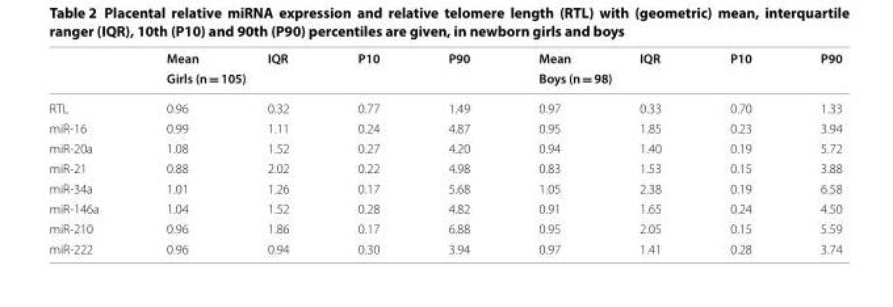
<table><thead><tr><td rowspan="2"></td><td>Mean</td><td>IQR</td><td>P10</td><td>P90</td><td>Mean</td><td>IQR</td><td>P10</td><td>P90</td></tr><tr><td colspan="4">Girls (n = 105)</td><td colspan="4">Boys (n = 98)</td></tr></thead><tbody><tr><td>RTL</td><td>0.96</td><td>0.32</td><td>0.77</td><td>1.49</td><td>0.97</td><td>0.33</td><td>0.70</td><td>1.33</td></tr><tr><td>miR-16</td><td>0.99</td><td>1.11</td><td>0.24</td><td>4.87</td><td>0.95</td><td>1.85</td><td>0.23</td><td>3.94</td></tr><tr><td>miR-20a</td><td>1.08</td><td>1.52</td><td>0.27</td><td>4.20</td><td>0.94</td><td>1.40</td><td>0.19</td><td>5.72</td></tr><tr><td>miR-21</td><td>0.88</td><td>2.02</td><td>0.22</td><td>4.98</td><td>0.83</td><td>1.53</td><td>0.15</td><td>3.88</td></tr><tr><td>miR-34a</td><td>1.01</td><td>1.26</td><td>0.17</td><td>5.68</td><td>1.05</td><td>2.38</td><td>0.19</td><td>6.58</td></tr><tr><td>miR-146a</td><td>1.04</td><td>1.52</td><td>0.28</td><td>4.82</td><td>0.91</td><td>1.65</td><td>0.24</td><td>4.50</td></tr><tr><td>miR-210</td><td>0.96</td><td>1.86</td><td>0.17</td><td>6.88</td><td>0.95</td><td>2.05</td><td>0.15</td><td>5.59</td></tr><tr><td>miR-222</td><td>0.96</td><td>0.94</td><td>0.30</td><td>3.94</td><td>0.97</td><td>1.41</td><td>0.28</td><td>3.74</td></tr></tbody></table>